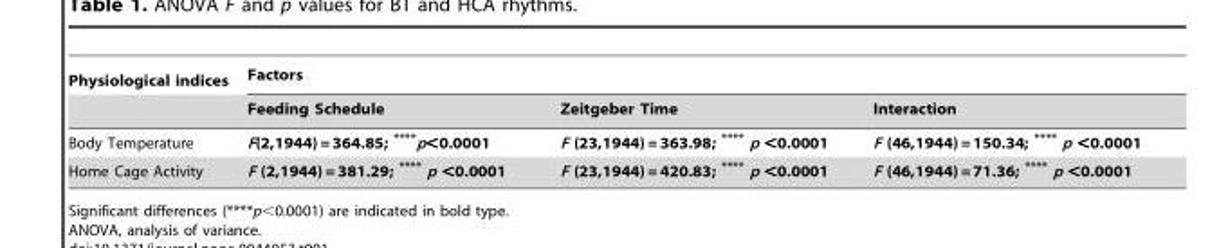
<table><thead><tr><td rowspan="2">Physiological indices</td><td colspan="3">Factors</td></tr><tr><td>Feeding Schedule</td><td>Zeitgeber Time</td><td>Interaction</td></tr></thead><tbody><tr><td>Body Temperature</td><td>F(2,1944) = 364.85; ****p&lt;0.0001</td><td>F (23,1944) = 363.98; **** p &lt;0.0001</td><td>F (46,1944) = 150.34; **** p &lt;0.0001</td></tr><tr><td>Home Cage Activity</td><td>F (2,1944) = 381.29; **** p &lt;0.0001</td><td>F (23,1944) = 420.83; **** p &lt;0.0001</td><td>F (46,1944) = 71.36; **** p &lt;0.0001</td></tr></tbody></table>